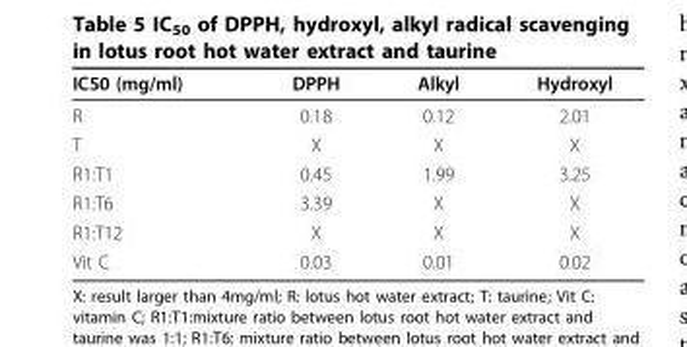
<table><thead><tr><td>IC50 (mg/ml)</td><td>DPPH</td><td>Alkyl</td><td>Hydroxyl</td></tr></thead><tbody><tr><td>R</td><td>0.18</td><td>0.12</td><td>2.01</td></tr><tr><td>T</td><td>X</td><td>X</td><td>X</td></tr><tr><td>R1:T1</td><td>0.45</td><td>1.99</td><td>3.25</td></tr><tr><td>R1:T6</td><td>3.39</td><td>X</td><td>X</td></tr><tr><td>R1:T12</td><td>X</td><td>X</td><td>X</td></tr><tr><td>Vit C</td><td>0.03</td><td>0.01</td><td>0.02</td></tr></tbody></table>